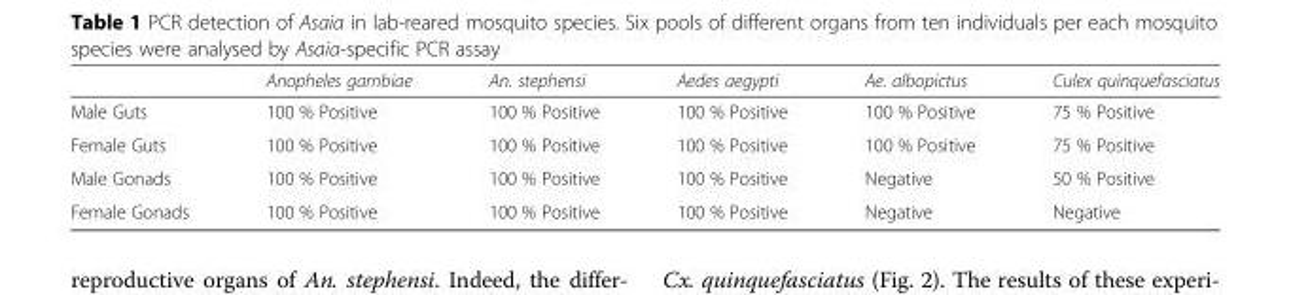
<table><thead><tr><td></td><td>Anopheles gambiae</td><td>An. stephensi</td><td>Aedes aegypti</td><td>Ae. albopictus</td><td>Culex quinquefasciatus</td></tr></thead><tbody><tr><td>Male Guts</td><td>100 % Positive</td><td>100 % Positive</td><td>100 % Positive</td><td>100 % Positive</td><td>75 % Positive</td></tr><tr><td>Female Guts</td><td>100 % Positive</td><td>100 % Positive</td><td>100 % Positive</td><td>100 % Positive</td><td>75 % Positive</td></tr><tr><td>Male Gonads</td><td>100 % Positive</td><td>100 % Positive</td><td>100 % Positive</td><td>Negative</td><td>50 % Positive</td></tr><tr><td>Female Gonads</td><td>100 % Positive</td><td>100 % Positive</td><td>100 % Positive</td><td>Negative</td><td>Negative</td></tr></tbody></table>